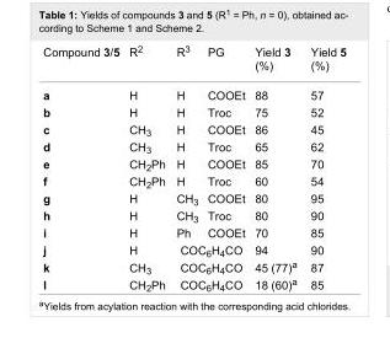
<table><tbody><tr><td>Compound 3/5</td><td>R<sup>2</sup></td><td>R<sup>3</sup></td><td>PG</td><td>Yield 3 (%)</td><td>Yield 5 (%)</td></tr><tr><td>a</td><td>H</td><td>H</td><td>COOEt</td><td>88</td><td>57</td></tr><tr><td>b</td><td>H</td><td>H</td><td>Troc</td><td>75</td><td>52</td></tr><tr><td>c</td><td>CH<sub>3</sub></td><td>H</td><td>COOEt</td><td>86</td><td>45</td></tr><tr><td>d</td><td>CH<sub>3</sub></td><td>H</td><td>Troc</td><td>65</td><td>62</td></tr><tr><td>e</td><td>CH<sub>2</sub>Ph</td><td>H</td><td>COOEt</td><td>85</td><td>70</td></tr><tr><td>f</td><td>CH<sub>2</sub>Ph</td><td>H</td><td>Troc</td><td>60</td><td>54</td></tr><tr><td>g</td><td>H</td><td>CH<sub>3</sub></td><td>COOEt</td><td>80</td><td>95</td></tr><tr><td>h</td><td>H</td><td>CH<sub>3</sub></td><td>Troc</td><td>80</td><td>90</td></tr><tr><td>i</td><td>H</td><td>Ph</td><td>COOEt</td><td>70</td><td>85</td></tr><tr><td>j</td><td>H</td><td colspan="2">COC<sub>6</sub>H<sub>4</sub>CO</td><td>94</td><td>90</td></tr><tr><td>k</td><td>CH<sub>3</sub></td><td colspan="2">COC<sub>6</sub>H<sub>4</sub>CO</td><td>45 (77)<sup>a</sup></td><td>87</td></tr><tr><td>l</td><td>CH<sub>2</sub>Ph</td><td colspan="2">COC<sub>6</sub>H<sub>4</sub>CO</td><td>18 (60)<sup>a</sup></td><td>85</td></tr></tbody></table>